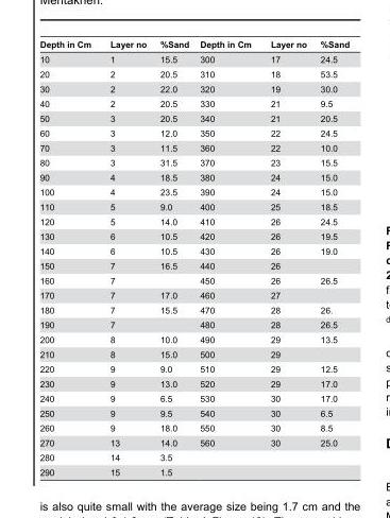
<table><thead><tr><td>Depth in Cm</td><td>Layer no</td><td>%Sand</td><td>Depth in Cm</td><td>Layer no</td><td>%Sand</td></tr></thead><tbody><tr><td>10</td><td>1</td><td>15.5</td><td>300</td><td>17</td><td>24.5</td></tr><tr><td>20</td><td>2</td><td>20.5</td><td>310</td><td>18</td><td>53.5</td></tr><tr><td>30</td><td>2</td><td>22.0</td><td>320</td><td>19</td><td>30.0</td></tr><tr><td>40</td><td>2</td><td>20.5</td><td>330</td><td>21</td><td>9.5</td></tr><tr><td>50</td><td>3</td><td>20.5</td><td>340</td><td>21</td><td>20.5</td></tr><tr><td>60</td><td>3</td><td>12.0</td><td>350</td><td>22</td><td>24.5</td></tr><tr><td>70</td><td>3</td><td>11.5</td><td>360</td><td>22</td><td>10.0</td></tr><tr><td>80</td><td>3</td><td>31.5</td><td>370</td><td>23</td><td>15.5</td></tr><tr><td>90</td><td>4</td><td>18.5</td><td>380</td><td>24</td><td>15.0</td></tr><tr><td>100</td><td>4</td><td>23.5</td><td>390</td><td>24</td><td>15.0</td></tr><tr><td>110</td><td>5</td><td>9.0</td><td>400</td><td>25</td><td>18.5</td></tr><tr><td>120</td><td>5</td><td>14.0</td><td>410</td><td>26</td><td>24.5</td></tr><tr><td>130</td><td>6</td><td>10.5</td><td>420</td><td>26</td><td>19.5</td></tr><tr><td>140</td><td>6</td><td>10.5</td><td>430</td><td>26</td><td>19.0</td></tr><tr><td>150</td><td>7</td><td>16.5</td><td>440</td><td>26</td><td></td></tr><tr><td>160</td><td>7</td><td></td><td>450</td><td>26</td><td>26.5</td></tr><tr><td>170</td><td>7</td><td>17.0</td><td>460</td><td>27</td><td></td></tr><tr><td>180</td><td>7</td><td>15.5</td><td>470</td><td>28</td><td>26.</td></tr><tr><td>190</td><td>7</td><td></td><td>480</td><td>28</td><td>26.5</td></tr><tr><td>200</td><td>8</td><td>10.0</td><td>490</td><td>29</td><td>13.5</td></tr><tr><td>210</td><td>8</td><td>15.0</td><td>500</td><td>29</td><td></td></tr><tr><td>220</td><td>9</td><td>9.0</td><td>510</td><td>29</td><td>12.5</td></tr><tr><td>230</td><td>9</td><td>13.0</td><td>520</td><td>29</td><td>17.0</td></tr><tr><td>240</td><td>9</td><td>6.5</td><td>530</td><td>30</td><td>17.0</td></tr><tr><td>250</td><td>9</td><td>9.5</td><td>540</td><td>30</td><td>6.5</td></tr><tr><td>260</td><td>9</td><td>18.0</td><td>550</td><td>30</td><td>8.5</td></tr><tr><td>270</td><td>13</td><td>14.0</td><td>560</td><td>30</td><td>25.0</td></tr><tr><td>280</td><td>14</td><td>3.5</td><td></td><td></td><td></td></tr><tr><td>290</td><td>15</td><td>1.5</td><td></td><td></td><td></td></tr></tbody></table>